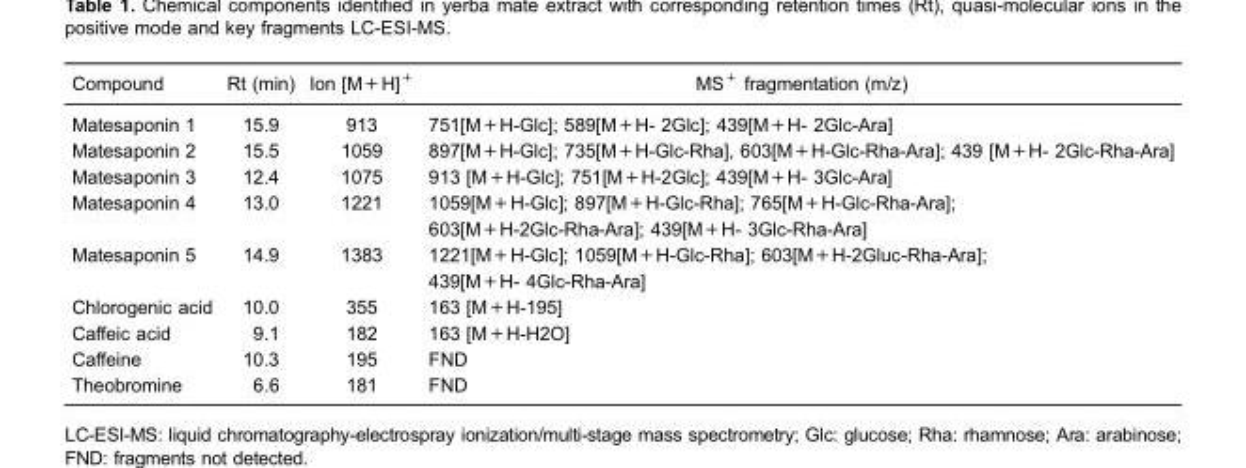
<table><thead><tr><td>Compound</td><td>Rt (min)</td><td>Ion [M+H]+</td><td>MS<sup>+</sup> fragmentation (m/z)</td></tr></thead><tbody><tr><td>Matesaponin 1</td><td>15.9</td><td>913</td><td>751[M+H-Glc]; 589[M+H- 2Glc]; 439[M+H- 2Glc-Ara]</td></tr><tr><td>Matesaponin 2</td><td>15.5</td><td>1059</td><td>897[M+H-Glc]; 735[M+H-Glc-Rha], 603[M+H-Glc-Rha-Ara]; 439 [M+H- 2Glc-Rha-Ara]</td></tr><tr><td>Matesaponin 3</td><td>12.4</td><td>1075</td><td>913 [M+H-Glc]; 751[M+H-2Glc]; 439[M+H- 3Glc-Ara]</td></tr><tr><td>Matesaponin 4</td><td>13.0</td><td>1221</td><td>1059[M+H-Glc]; 897[M+H-Glc-Rha]; 765[M+H-Glc-Rha-Ara]; 603[M+H-2Glc-Rha-Ara]; 439[M+H- 3Glc-Rha-Ara]</td></tr><tr><td>Matesaponin 5</td><td>14.9</td><td>1383</td><td>1221[M+H-Glc]; 1059[M+H-Glc-Rha]; 603[M+H-2Gluc-Rha-Ara]; 439[M+H- 4Glc-Rha-Ara]</td></tr><tr><td>Chlorogenic acid</td><td>10.0</td><td>355</td><td>163 [M+H-195]</td></tr><tr><td>Caffeic acid</td><td>9.1</td><td>182</td><td>163 [M+H-H2O]</td></tr><tr><td>Caffeine</td><td>10.3</td><td>195</td><td>FND</td></tr><tr><td>Theobromine</td><td>6.6</td><td>181</td><td>FND</td></tr></tbody></table>